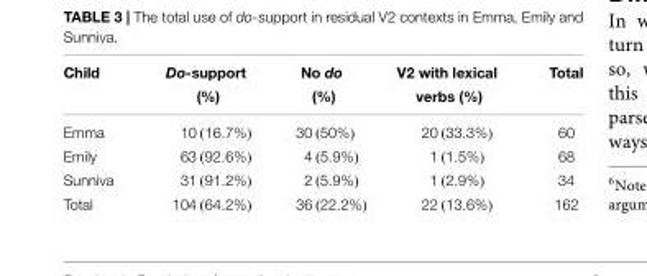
<table><thead><tr><td rowspan="2">Child</td><td rowspan="2">Do-support (%)</td><td rowspan="2">No do (%)</td><td rowspan="2">V2 with lexical verbs (%)</td><td rowspan="2">Total</td></tr><tr></tr></thead><tbody><tr><td>Emma</td><td>10 (16.7%)</td><td>30 (50%)</td><td>20 (33.3%)</td><td>60</td></tr><tr><td>Emily</td><td>63 (92.6%)</td><td>4 (5.9%)</td><td>1 (1.5%)</td><td>68</td></tr><tr><td>Sunniva</td><td>31 (91.2%)</td><td>2 (5.9%)</td><td>1 (2.9%)</td><td>34</td></tr><tr><td>Total</td><td>104 (64.2%)</td><td>36 (22.2%)</td><td>22 (13.6%)</td><td>162</td></tr></tbody></table>